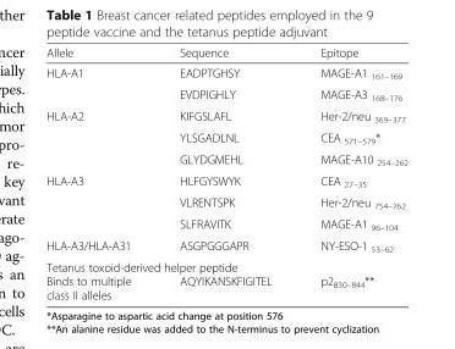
<table><thead><tr><td>Allele</td><td>Sequence</td><td>Epitope</td></tr></thead><tbody><tr><td rowspan="2">HLA-A1</td><td>EADPTGHSY</td><td>MAGE-A1 <sub>161–169</sub></td></tr><tr><td>EVDPIGHLY</td><td>MAGE-A3 <sub>168–176</sub></td></tr><tr><td rowspan="3">HLA-A2</td><td>KIFGSLAFL</td><td>Her-2/neu <sub>369–377</sub></td></tr><tr><td>YLSGADLNL</td><td>CEA <sub>571–579</sub>*</td></tr><tr><td>GLYDGMEHL</td><td>MAGE-A10 <sub>254–262</sub></td></tr><tr><td rowspan="3">HLA-A3</td><td>HLFGYSWYK</td><td>CEA <sub>27–35</sub></td></tr><tr><td>VLRENTSPK</td><td>Her-2/neu <sub>754–762</sub></td></tr><tr><td>SLFRAVITK</td><td>MAGE-A1 <sub>96–104</sub></td></tr><tr><td>HLA-A3/HLA-A31</td><td>ASGPGGGAPR</td><td>NY-ESO-1 <sub>53–62</sub></td></tr><tr><td colspan="3">Tetanus toxoid-derived helper peptide</td></tr><tr><td>Binds to multiple class II alleles</td><td>AQYIKANSKFIGITEL</td><td>p2<sub>830–844</sub>**</td></tr></tbody></table>